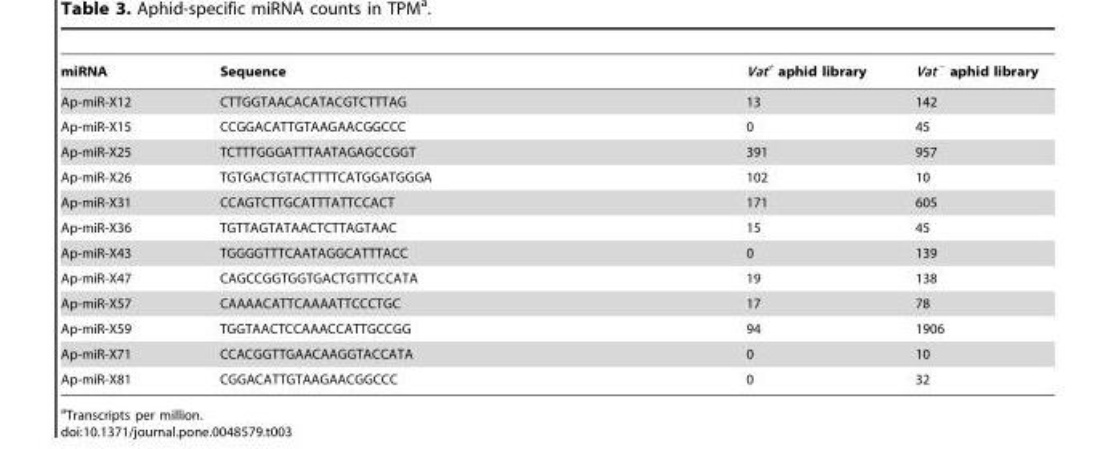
<table><thead><tr><td>miRNA</td><td>Sequence</td><td>Vat<sup>+</sup> aphid library</td><td>Vat<sup>−</sup> aphid library</td></tr></thead><tbody><tr><td>Ap-miR-X12</td><td>CTTGGTAACACATACGTCTTTAG</td><td>13</td><td>142</td></tr><tr><td>Ap-miR-X15</td><td>CCGGACATTGTAAGAACGGCCC</td><td>0</td><td>45</td></tr><tr><td>Ap-miR-X25</td><td>TCTTTGGGATTTAATAGAGCCGGT</td><td>391</td><td>957</td></tr><tr><td>Ap-miR-X26</td><td>TGTGACTGTACTTTTCATGGATGGGA</td><td>102</td><td>10</td></tr><tr><td>Ap-miR-X31</td><td>CCAGTCTTGCATTTATTCCACT</td><td>171</td><td>605</td></tr><tr><td>Ap-miR-X36</td><td>TGTTAGTATAACTCTTAGTAAC</td><td>15</td><td>45</td></tr><tr><td>Ap-miR-X43</td><td>TGGGGTTTCAATAGGCATTTACC</td><td>0</td><td>139</td></tr><tr><td>Ap-miR-X47</td><td>CAGCCGGTGGTGACTGTTTCCATA</td><td>19</td><td>138</td></tr><tr><td>Ap-miR-X57</td><td>CAAAACATTCAAAATTCCCTGC</td><td>17</td><td>78</td></tr><tr><td>Ap-miR-X59</td><td>TGGTAACTCCAAACCATTGCCGG</td><td>94</td><td>1906</td></tr><tr><td>Ap-miR-X71</td><td>CCACGGTTGAACAAGGTACCATA</td><td>0</td><td>10</td></tr><tr><td>Ap-miR-X81</td><td>CGGACATTGTAAGAACGGCCC</td><td>0</td><td>32</td></tr></tbody></table>